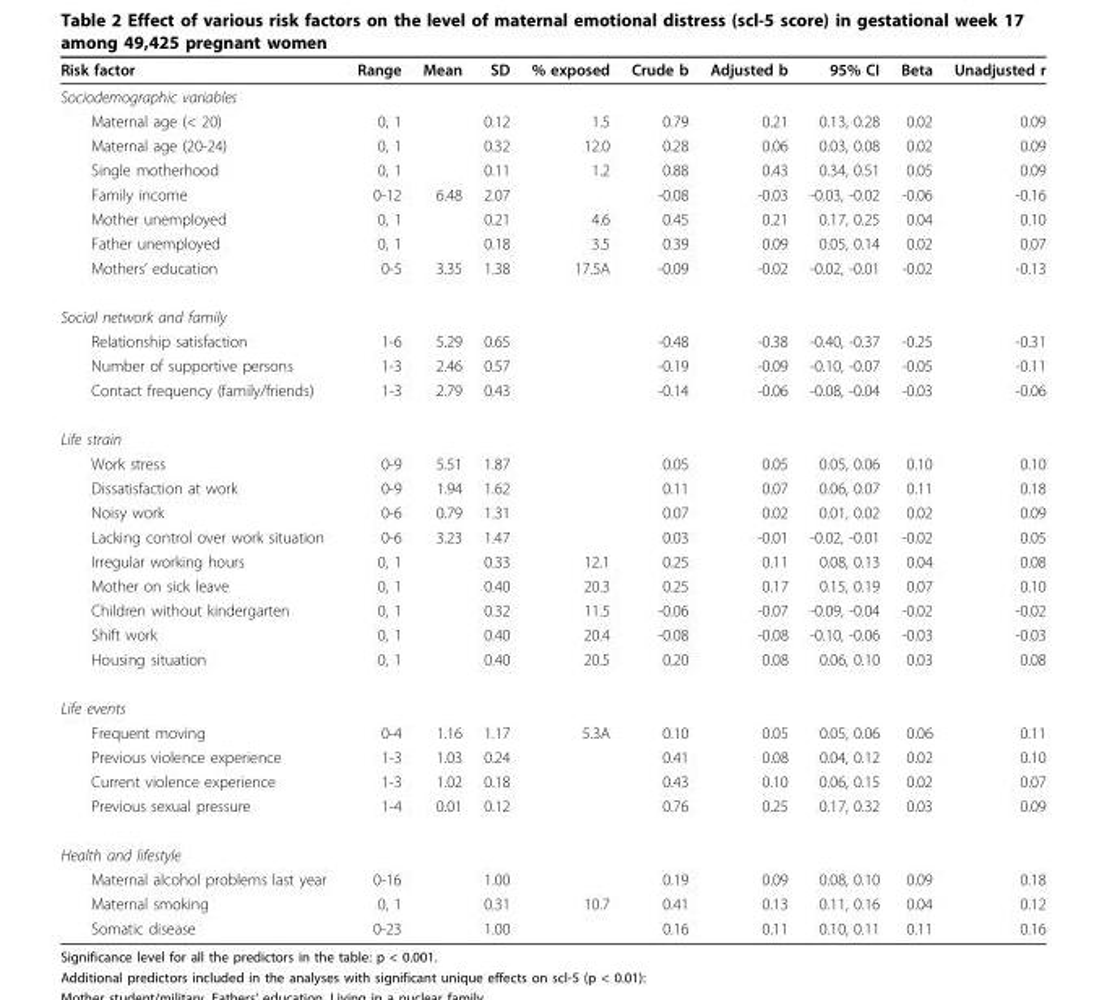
<table><thead><tr><td>Risk factor</td><td>Range</td><td>Mean</td><td>SD</td><td>% exposed</td><td>Crude b</td><td>Adjusted b</td><td>95% CI</td><td>Beta</td><td>Unadjusted r</td></tr></thead><tbody><tr><td colspan="10">Sociodemographic variables</td></tr><tr><td>Maternal age (&lt; 20)</td><td>0, 1</td><td></td><td>0.12</td><td>1.5</td><td>0.79</td><td>0.21</td><td>0.13, 0.28</td><td>0.02</td><td>0.09</td></tr><tr><td>Maternal age (20-24)</td><td>0, 1</td><td></td><td>0.32</td><td>12.0</td><td>0.28</td><td>0.06</td><td>0.03, 0.08</td><td>0.02</td><td>0.09</td></tr><tr><td>Single motherhood</td><td>0, 1</td><td></td><td>0.11</td><td>1.2</td><td>0.88</td><td>0.43</td><td>0.34, 0.51</td><td>0.05</td><td>0.09</td></tr><tr><td>Family income</td><td>0-12</td><td>6.48</td><td>2.07</td><td></td><td>-0.08</td><td>-0.03</td><td>-0.03, -0.02</td><td>-0.06</td><td>-0.16</td></tr><tr><td>Mother unemployed</td><td>0, 1</td><td></td><td>0.21</td><td>4.6</td><td>0.45</td><td>0.21</td><td>0.17, 0.25</td><td>0.04</td><td>0.10</td></tr><tr><td>Father unemployed</td><td>0, 1</td><td></td><td>0.18</td><td>3.5</td><td>0.39</td><td>0.09</td><td>0.05, 0.14</td><td>0.02</td><td>0.07</td></tr><tr><td>Mothers’ education</td><td>0-5</td><td>3.35</td><td>1.38</td><td>17.5A</td><td>-0.09</td><td>-0.02</td><td>-0.02, -0.01</td><td>-0.02</td><td>-0.13</td></tr><tr><td colspan="10">Social network and family</td></tr><tr><td>Relationship satisfaction</td><td>1-6</td><td>5.29</td><td>0.65</td><td></td><td>-0.48</td><td>-0.38</td><td>-0.40, -0.37</td><td>-0.25</td><td>-0.31</td></tr><tr><td>Number of supportive persons</td><td>1-3</td><td>2.46</td><td>0.57</td><td></td><td>-0.19</td><td>-0.09</td><td>-0.10, -0.07</td><td>-0.05</td><td>-0.11</td></tr><tr><td>Contact frequency (family/friends)</td><td>1-3</td><td>2.79</td><td>0.43</td><td></td><td>-0.14</td><td>-0.06</td><td>-0.08, -0.04</td><td>-0.03</td><td>-0.06</td></tr><tr><td colspan="10">Life strain</td></tr><tr><td>Work stress</td><td>0-9</td><td>5.51</td><td>1.87</td><td></td><td>0.05</td><td>0.05</td><td>0.05, 0.06</td><td>0.10</td><td>0.10</td></tr><tr><td>Dissatisfaction at work</td><td>0-9</td><td>1.94</td><td>1.62</td><td></td><td>0.11</td><td>0.07</td><td>0.06, 0.07</td><td>0.11</td><td>0.18</td></tr><tr><td>Noisy work</td><td>0-6</td><td>0.79</td><td>1.31</td><td></td><td>0.07</td><td>0.02</td><td>0.01, 0.02</td><td>0.02</td><td>0.09</td></tr><tr><td>Lacking control over work situation</td><td>0-6</td><td>3.23</td><td>1.47</td><td></td><td>0.03</td><td>-0.01</td><td>-0.02, -0.01</td><td>-0.02</td><td>0.05</td></tr><tr><td>Irregular working hours</td><td>0, 1</td><td></td><td>0.33</td><td>12.1</td><td>0.25</td><td>0.11</td><td>0.08, 0.13</td><td>0.04</td><td>0.08</td></tr><tr><td>Mother on sick leave</td><td>0, 1</td><td></td><td>0.40</td><td>20.3</td><td>0.25</td><td>0.17</td><td>0.15, 0.19</td><td>0.07</td><td>0.10</td></tr><tr><td>Children without kindergarten</td><td>0, 1</td><td></td><td>0.32</td><td>11.5</td><td>-0.06</td><td>-0.07</td><td>-0.09, -0.04</td><td>-0.02</td><td>-0.02</td></tr><tr><td>Shift work</td><td>0, 1</td><td></td><td>0.40</td><td>20.4</td><td>-0.08</td><td>-0.08</td><td>-0.10, -0.06</td><td>-0.03</td><td>-0.03</td></tr><tr><td>Housing situation</td><td>0, 1</td><td></td><td>0.40</td><td>20.5</td><td>0.20</td><td>0.08</td><td>0.06, 0.10</td><td>0.03</td><td>0.08</td></tr><tr><td colspan="10">Life events</td></tr><tr><td>Frequent moving</td><td>0-4</td><td>1.16</td><td>1.17</td><td>5.3A</td><td>0.10</td><td>0.05</td><td>0.05, 0.06</td><td>0.06</td><td>0.11</td></tr><tr><td>Previous violence experience</td><td>1-3</td><td>1.03</td><td>0.24</td><td></td><td>0.41</td><td>0.08</td><td>0.04, 0.12</td><td>0.02</td><td>0.10</td></tr><tr><td>Current violence experience</td><td>1-3</td><td>1.02</td><td>0.18</td><td></td><td>0.43</td><td>0.10</td><td>0.06, 0.15</td><td>0.02</td><td>0.07</td></tr><tr><td>Previous sexual pressure</td><td>1-4</td><td>0.01</td><td>0.12</td><td></td><td>0.76</td><td>0.25</td><td>0.17, 0.32</td><td>0.03</td><td>0.09</td></tr><tr><td colspan="10">Health and lifestyle</td></tr><tr><td>Maternal alcohol problems last year</td><td>0-16</td><td></td><td>1.00</td><td></td><td>0.19</td><td>0.09</td><td>0.08, 0.10</td><td>0.09</td><td>0.18</td></tr><tr><td>Maternal smoking</td><td>0, 1</td><td></td><td>0.31</td><td>10.7</td><td>0.41</td><td>0.13</td><td>0.11, 0.16</td><td>0.04</td><td>0.12</td></tr><tr><td>Somatic disease</td><td>0-23</td><td></td><td>1.00</td><td></td><td>0.16</td><td>0.11</td><td>0.10, 0.11</td><td>0.11</td><td>0.16</td></tr></tbody></table>